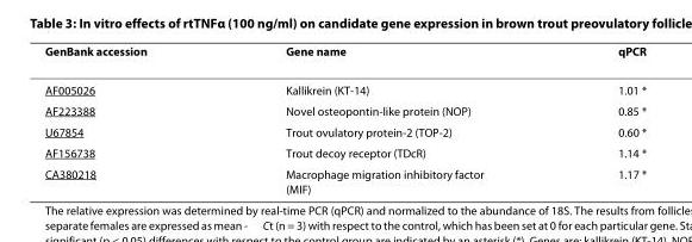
<table><thead><tr><td>GenBank accession</td><td>Gene name</td><td>qPCR</td></tr></thead><tbody><tr><td>AF005026</td><td>Kallikrein (KT-14)</td><td>1.01 *</td></tr><tr><td>AF223388</td><td>Novel osteopontin-like protein (NOP)</td><td>0.85 *</td></tr><tr><td>U67854</td><td>Trout ovulatory protein-2 (TOP-2)</td><td>0.60 *</td></tr><tr><td>AF156738</td><td>Trout decoy receptor (TDcR)</td><td>1.14 *</td></tr><tr><td>CA380218</td><td>Macrophage migration inhibitory factor (MIF)</td><td>1.17 *</td></tr></tbody></table>